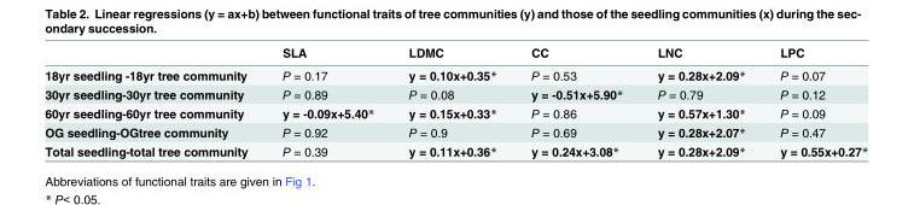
<table><thead><tr><td></td><td>SLA</td><td>LDMC</td><td>CC</td><td>LNC</td><td>LPC</td></tr></thead><tbody><tr><td>18yr seedling -18yr tree community</td><td>P = 0.17</td><td>y = 0.10x+0.35*</td><td>P = 0.53</td><td>y = 0.28x+2.09*</td><td>P = 0.07</td></tr><tr><td>30yr seedling-30yr tree community</td><td>P = 0.89</td><td>P = 0.08</td><td>y = -0.51x+5.90*</td><td>P = 0.79</td><td>P = 0.12</td></tr><tr><td>60yr seedling-60yr tree community</td><td>y = -0.09x+5.40*</td><td>y = 0.15x+0.33*</td><td>P = 0.86</td><td>y = 0.57x+1.30*</td><td>P = 0.09</td></tr><tr><td>OG seedling-OGtree community</td><td>P = 0.92</td><td>P = 0.9</td><td>P = 0.69</td><td>y = 0.28x+2.07*</td><td>P = 0.47</td></tr><tr><td>Total seedling-total tree community</td><td>P = 0.39</td><td>y = 0.11x+0.36*</td><td>y = 0.24x+3.08*</td><td>y = 0.28x+2.09*</td><td>y = 0.55x+0.27*</td></tr></tbody></table>